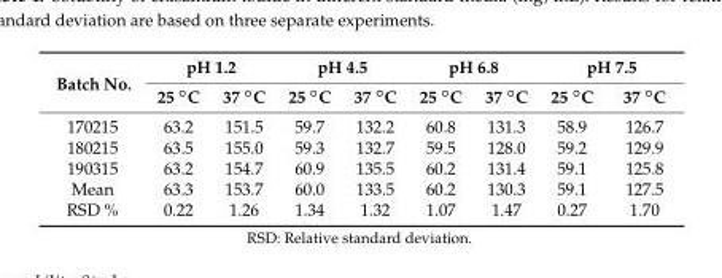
<table><thead><tr><td rowspan="2">Batch No.</td><td colspan="2">pH 1.2</td><td colspan="2">pH 4.5</td><td colspan="2">pH 6.8</td><td colspan="2">pH 7.5</td></tr><tr><td>25 ◦C</td><td>37 ◦C</td><td>25 ◦C</td><td>37 ◦C</td><td>25 ◦C</td><td>37 ◦C</td><td>25 ◦C</td><td>37 ◦C</td></tr></thead><tbody><tr><td>170215</td><td>63.2</td><td>151.5</td><td>59.7</td><td>132.2</td><td>60.8</td><td>131.3</td><td>58.9</td><td>126.7</td></tr><tr><td>180215</td><td>63.5</td><td>155.0</td><td>59.3</td><td>132.7</td><td>59.5</td><td>128.0</td><td>59.2</td><td>129.9</td></tr><tr><td>190315</td><td>63.2</td><td>154.7</td><td>60.9</td><td>135.5</td><td>60.2</td><td>131.4</td><td>59.1</td><td>125.8</td></tr><tr><td>Mean</td><td>63.3</td><td>153.7</td><td>60.0</td><td>133.5</td><td>60.2</td><td>130.3</td><td>59.1</td><td>127.5</td></tr><tr><td>RSD %</td><td>0.22</td><td>1.26</td><td>1.34</td><td>1.32</td><td>1.07</td><td>1.47</td><td>0.27</td><td>1.70</td></tr></tbody></table>